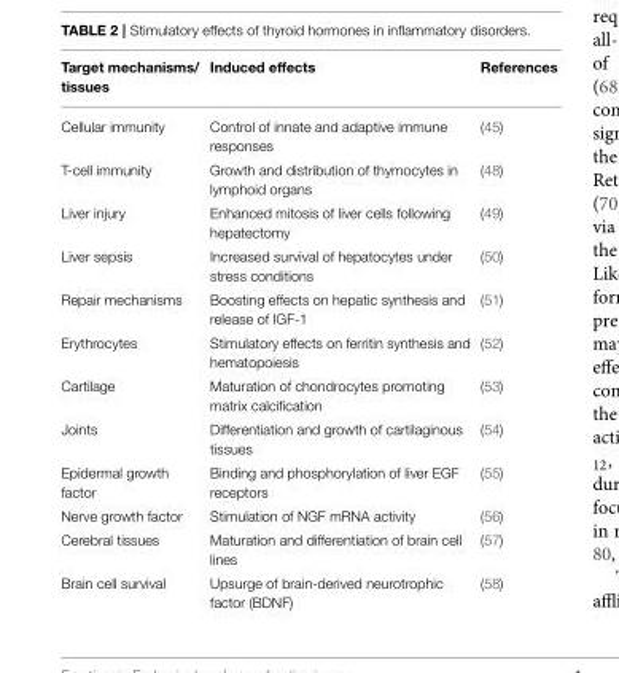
<table><thead><tr><td>Target mechanisms/ tissues</td><td>Induced effects</td><td>References</td></tr></thead><tbody><tr><td>Cellular immunity</td><td>Control of innate and adaptive immune responses</td><td>(45)</td></tr><tr><td>T-cell immunity</td><td>Growth and distribution of thymocytes in lymphoid organs</td><td>(48)</td></tr><tr><td>Liver injury</td><td>Enhanced mitosis of liver cells following hepatectomy</td><td>(49)</td></tr><tr><td>Liver sepsis</td><td>Increased survival of hepatocytes under stress conditions</td><td>(50)</td></tr><tr><td>Repair mechanisms</td><td>Boosting effects on hepatic synthesis and release of IGF-1</td><td>(51)</td></tr><tr><td>Erythrocytes</td><td>Stimulatory effects on ferritin synthesis and hematopoiesis</td><td>(52)</td></tr><tr><td>Cartilage</td><td>Maturation of chondrocytes promoting matrix calcification</td><td>(53)</td></tr><tr><td>Joints</td><td>Differentiation and growth of cartilaginous tissues</td><td>(54)</td></tr><tr><td>Epidermal growth factor</td><td>Binding and phosphorylation of liver EGF receptors</td><td>(55)</td></tr><tr><td>Nerve growth factor</td><td>Stimulation of NGF mRNA activity</td><td>(56)</td></tr><tr><td>Cerebral tissues</td><td>Maturation and differentiation of brain cell lines</td><td>(57)</td></tr><tr><td>Brain cell survival</td><td>Upsurge of brain-derived neurotrophic factor (BDNF)</td><td>(58)</td></tr></tbody></table>